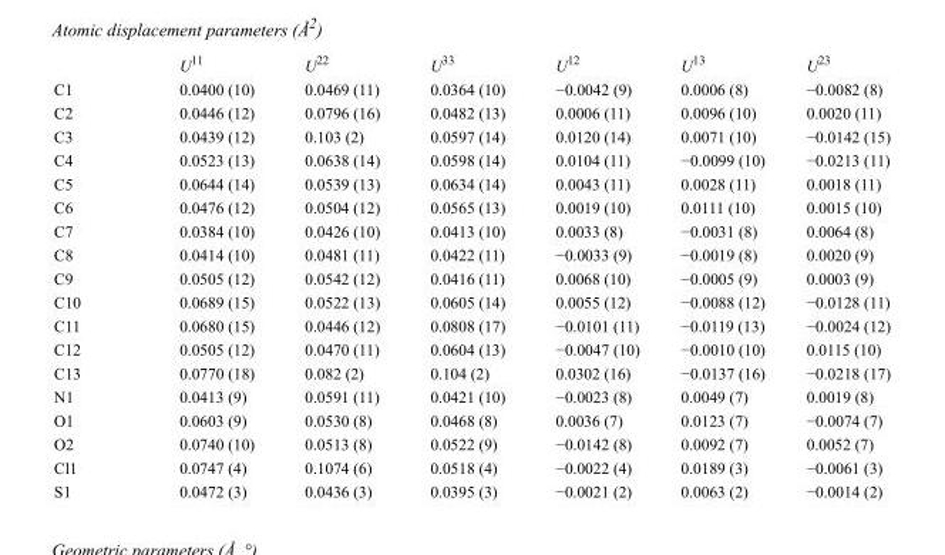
<table><thead><tr><td></td><td>U<sup>11</sup></td><td>U<sup>22</sup></td><td>U<sup>33</sup></td><td>U<sup>12</sup></td><td>U<sup>13</sup></td><td>U<sup>23</sup></td></tr></thead><tbody><tr><td>C1</td><td>0.0400 (10)</td><td>0.0469 (11)</td><td>0.0364 (10)</td><td>−0.0042 (9)</td><td>0.0006 (8)</td><td>−0.0082 (8)</td></tr><tr><td>C2</td><td>0.0446 (12)</td><td>0.0796 (16)</td><td>0.0482 (13)</td><td>0.0006 (11)</td><td>0.0096 (10)</td><td>0.0020 (11)</td></tr><tr><td>C3</td><td>0.0439 (12)</td><td>0.103 (2)</td><td>0.0597 (14)</td><td>0.0120 (14)</td><td>0.0071 (10)</td><td>−0.0142 (15)</td></tr><tr><td>C4</td><td>0.0523 (13)</td><td>0.0638 (14)</td><td>0.0598 (14)</td><td>0.0104 (11)</td><td>−0.0099 (10)</td><td>−0.0213 (11)</td></tr><tr><td>C5</td><td>0.0644 (14)</td><td>0.0539 (13)</td><td>0.0634 (14)</td><td>0.0043 (11)</td><td>0.0028 (11)</td><td>0.0018 (11)</td></tr><tr><td>C6</td><td>0.0476 (12)</td><td>0.0504 (12)</td><td>0.0565 (13)</td><td>0.0019 (10)</td><td>0.0111 (10)</td><td>0.0015 (10)</td></tr><tr><td>C7</td><td>0.0384 (10)</td><td>0.0426 (10)</td><td>0.0413 (10)</td><td>0.0033 (8)</td><td>−0.0031 (8)</td><td>0.0064 (8)</td></tr><tr><td>C8</td><td>0.0414 (10)</td><td>0.0481 (11)</td><td>0.0422 (11)</td><td>−0.0033 (9)</td><td>−0.0019 (8)</td><td>0.0020 (9)</td></tr><tr><td>C9</td><td>0.0505 (12)</td><td>0.0542 (12)</td><td>0.0416 (11)</td><td>0.0068 (10)</td><td>−0.0005 (9)</td><td>0.0003 (9)</td></tr><tr><td>C10</td><td>0.0689 (15)</td><td>0.0522 (13)</td><td>0.0605 (14)</td><td>0.0055 (12)</td><td>−0.0088 (12)</td><td>−0.0128 (11)</td></tr><tr><td>C11</td><td>0.0680 (15)</td><td>0.0446 (12)</td><td>0.0808 (17)</td><td>−0.0101 (11)</td><td>−0.0119 (13)</td><td>−0.0024 (12)</td></tr><tr><td>C12</td><td>0.0505 (12)</td><td>0.0470 (11)</td><td>0.0604 (13)</td><td>−0.0047 (10)</td><td>−0.0010 (10)</td><td>0.0115 (10)</td></tr><tr><td>C13</td><td>0.0770 (18)</td><td>0.082 (2)</td><td>0.104 (2)</td><td>0.0302 (16)</td><td>−0.0137 (16)</td><td>−0.0218 (17)</td></tr><tr><td>N1</td><td>0.0413 (9)</td><td>0.0591 (11)</td><td>0.0421 (10)</td><td>−0.0023 (8)</td><td>0.0049 (7)</td><td>0.0019 (8)</td></tr><tr><td>O1</td><td>0.0603 (9)</td><td>0.0530 (8)</td><td>0.0468 (8)</td><td>0.0036 (7)</td><td>0.0123 (7)</td><td>−0.0074 (7)</td></tr><tr><td>O2</td><td>0.0740 (10)</td><td>0.0513 (8)</td><td>0.0522 (9)</td><td>−0.0142 (8)</td><td>0.0092 (7)</td><td>0.0052 (7)</td></tr><tr><td>Cl1</td><td>0.0747 (4)</td><td>0.1074 (6)</td><td>0.0518 (4)</td><td>−0.0022 (4)</td><td>0.0189 (3)</td><td>−0.0061 (3)</td></tr><tr><td>S1</td><td>0.0472 (3)</td><td>0.0436 (3)</td><td>0.0395 (3)</td><td>−0.0021 (2)</td><td>0.0063 (2)</td><td>−0.0014 (2)</td></tr></tbody></table>